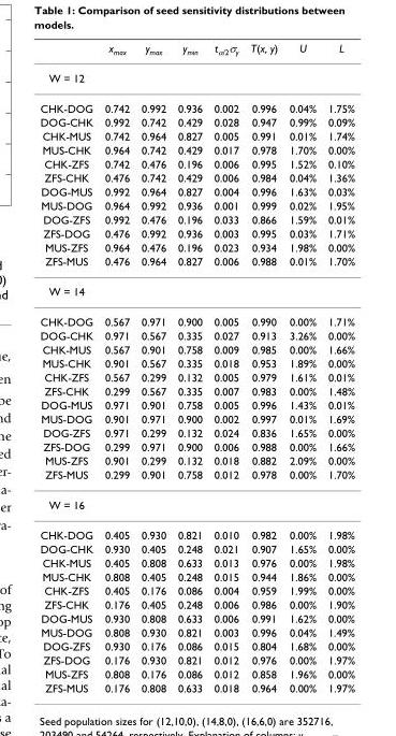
<table><thead><tr><td></td><td>x<sub>max</sub></td><td>y<sub>max</sub></td><td>y<sub>min</sub></td><td>t<sub>α/2</sub>σ<sub>y</sub></td><td>T(x, y)</td><td>U</td><td>L</td></tr></thead><tbody><tr><td colspan="8">W = 12</td></tr><tr><td>CHK-DOG</td><td>0.742</td><td>0.992</td><td>0.936</td><td>0.002</td><td>0.996</td><td>0.04%</td><td>1.75%</td></tr><tr><td>DOG-CHK</td><td>0.992</td><td>0.742</td><td>0.429</td><td>0.028</td><td>0.947</td><td>0.99%</td><td>0.09%</td></tr><tr><td>CHK-MUS</td><td>0.742</td><td>0.964</td><td>0.827</td><td>0.005</td><td>0.991</td><td>0.01%</td><td>1.74%</td></tr><tr><td>MUS-CHK</td><td>0.964</td><td>0.742</td><td>0.429</td><td>0.017</td><td>0.978</td><td>1.70%</td><td>0.00%</td></tr><tr><td>CHK-ZFS</td><td>0.742</td><td>0.476</td><td>0.196</td><td>0.006</td><td>0.995</td><td>1.52%</td><td>0.10%</td></tr><tr><td>ZFS-CHK</td><td>0.476</td><td>0.742</td><td>0.429</td><td>0.006</td><td>0.984</td><td>0.04%</td><td>1.36%</td></tr><tr><td>DOG-MUS</td><td>0.992</td><td>0.964</td><td>0.827</td><td>0.004</td><td>0.996</td><td>1.63%</td><td>0.03%</td></tr><tr><td>MUS-DOG</td><td>0.964</td><td>0.992</td><td>0.936</td><td>0.001</td><td>0.999</td><td>0.02%</td><td>1.95%</td></tr><tr><td>DOG-ZFS</td><td>0.992</td><td>0.476</td><td>0.196</td><td>0.033</td><td>0.866</td><td>1.59%</td><td>0.01%</td></tr><tr><td>ZFS-DOG</td><td>0.476</td><td>0.992</td><td>0.936</td><td>0.003</td><td>0.995</td><td>0.03%</td><td>1.71%</td></tr><tr><td>MUS-ZFS</td><td>0.964</td><td>0.476</td><td>0.196</td><td>0.023</td><td>0.934</td><td>1.98%</td><td>0.00%</td></tr><tr><td>ZFS-MUS</td><td>0.476</td><td>0.964</td><td>0.827</td><td>0.006</td><td>0.988</td><td>0.01%</td><td>1.70%</td></tr><tr><td colspan="8">W = 14</td></tr><tr><td>CHK-DOG</td><td>0.567</td><td>0.971</td><td>0.900</td><td>0.005</td><td>0.990</td><td>0.00%</td><td>1.71%</td></tr><tr><td>DOG-CHK</td><td>0.971</td><td>0.567</td><td>0.335</td><td>0.027</td><td>0.913</td><td>3.26%</td><td>0.00%</td></tr><tr><td>CHK-MUS</td><td>0.567</td><td>0.901</td><td>0.758</td><td>0.009</td><td>0.985</td><td>0.00%</td><td>1.66%</td></tr><tr><td>MUS-CHK</td><td>0.901</td><td>0.567</td><td>0.335</td><td>0.018</td><td>0.953</td><td>1.89%</td><td>0.00%</td></tr><tr><td>CHK-ZFS</td><td>0.567</td><td>0.299</td><td>0.132</td><td>0.005</td><td>0.979</td><td>1.61%</td><td>0.01%</td></tr><tr><td>ZFS-CHK</td><td>0.299</td><td>0.567</td><td>0.335</td><td>0.007</td><td>0.983</td><td>0.00%</td><td>1.48%</td></tr><tr><td>DOG-MUS</td><td>0.971</td><td>0.901</td><td>0.758</td><td>0.005</td><td>0.996</td><td>1.43%</td><td>0.01%</td></tr><tr><td>MUS-DOG</td><td>0.901</td><td>0.971</td><td>0.900</td><td>0.002</td><td>0.997</td><td>0.01%</td><td>1.69%</td></tr><tr><td>DOG-ZFS</td><td>0.971</td><td>0.299</td><td>0.132</td><td>0.024</td><td>0.836</td><td>1.65%</td><td>0.00%</td></tr><tr><td>ZFS-DOG</td><td>0.299</td><td>0.971</td><td>0.900</td><td>0.006</td><td>0.988</td><td>0.00%</td><td>1.66%</td></tr><tr><td>MUS-ZFS</td><td>0.901</td><td>0.299</td><td>0.132</td><td>0.018</td><td>0.882</td><td>2.09%</td><td>0.00%</td></tr><tr><td>ZFS-MUS</td><td>0.299</td><td>0.901</td><td>0.758</td><td>0.012</td><td>0.978</td><td>0.00%</td><td>1.70%</td></tr><tr><td colspan="8">W = 16</td></tr><tr><td>CHK-DOG</td><td>0.405</td><td>0.930</td><td>0.821</td><td>0.010</td><td>0.982</td><td>0.00%</td><td>1.98%</td></tr><tr><td>DOG-CHK</td><td>0.930</td><td>0.405</td><td>0.248</td><td>0.021</td><td>0.907</td><td>1.65%</td><td>0.00%</td></tr><tr><td>CHK-MUS</td><td>0.405</td><td>0.808</td><td>0.633</td><td>0.013</td><td>0.976</td><td>0.00%</td><td>1.98%</td></tr><tr><td>MUS-CHK</td><td>0.808</td><td>0.405</td><td>0.248</td><td>0.015</td><td>0.944</td><td>1.86%</td><td>0.00%</td></tr><tr><td>CHK-ZFS</td><td>0.405</td><td>0.176</td><td>0.086</td><td>0.004</td><td>0.959</td><td>1.99%</td><td>0.00%</td></tr><tr><td>ZFS-CHK</td><td>0.176</td><td>0.405</td><td>0.248</td><td>0.006</td><td>0.986</td><td>0.00%</td><td>1.90%</td></tr><tr><td>DOG-MUS</td><td>0.930</td><td>0.808</td><td>0.633</td><td>0.006</td><td>0.991</td><td>1.62%</td><td>0.00%</td></tr><tr><td>MUS-DOG</td><td>0.808</td><td>0.930</td><td>0.821</td><td>0.003</td><td>0.996</td><td>0.04%</td><td>1.49%</td></tr><tr><td>DOG-ZFS</td><td>0.930</td><td>0.176</td><td>0.086</td><td>0.015</td><td>0.804</td><td>1.68%</td><td>0.00%</td></tr><tr><td>ZFS-DOG</td><td>0.176</td><td>0.930</td><td>0.821</td><td>0.012</td><td>0.976</td><td>0.00%</td><td>1.97%</td></tr><tr><td>MUS-ZFS</td><td>0.808</td><td>0.176</td><td>0.086</td><td>0.012</td><td>0.858</td><td>1.96%</td><td>0.00%</td></tr><tr><td>ZFS-MUS</td><td>0.176</td><td>0.808</td><td>0.633</td><td>0.018</td><td>0.964</td><td>0.00%</td><td>1.97%</td></tr></tbody></table>